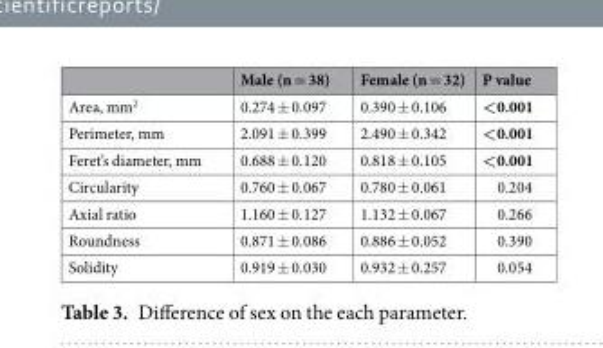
<table><thead><tr><td></td><td>Male (n = 38)</td><td>Female (n = 32)</td><td>P value</td></tr></thead><tbody><tr><td>Area, mm<sup>2</sup></td><td>0.274 ± 0.097</td><td>0.390 ± 0.106</td><td>&lt;0.001</td></tr><tr><td>Perimeter, mm</td><td>2.091 ± 0.399</td><td>2.490 ± 0.342</td><td>&lt;0.001</td></tr><tr><td>Feret’s diameter, mm</td><td>0.688 ± 0.120</td><td>0.818 ± 0.105</td><td>&lt;0.001</td></tr><tr><td>Circularity</td><td>0.760 ± 0.067</td><td>0.780 ± 0.061</td><td>0.204</td></tr><tr><td>Axial ratio</td><td>1.160 ± 0.127</td><td>1.132 ± 0.067</td><td>0.266</td></tr><tr><td>Roundness</td><td>0.871 ± 0.086</td><td>0.886 ± 0.052</td><td>0.390</td></tr><tr><td>Solidity</td><td>0.919 ± 0.030</td><td>0.932 ± 0.257</td><td>0.054</td></tr></tbody></table>